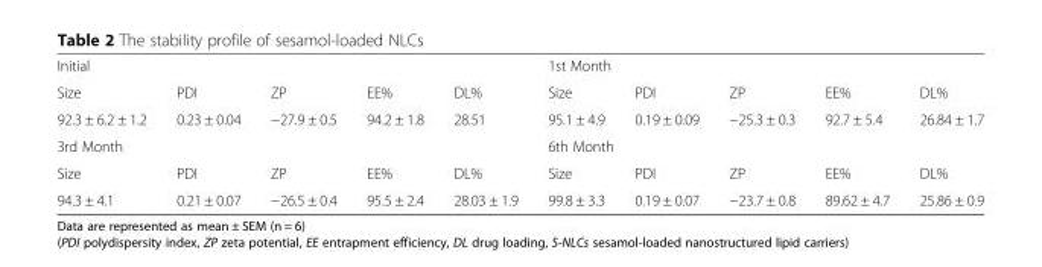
<table><tbody><tr><td colspan="5">Initial</td><td colspan="5">1st Month</td></tr><tr><td>Size</td><td>PDI</td><td>ZP</td><td>EE%</td><td>DL%</td><td>Size</td><td>PDI</td><td>ZP</td><td>EE%</td><td>DL%</td></tr><tr><td>92.3 ± 6.2 ± 1.2</td><td>0.23 ± 0.04</td><td>−27.9 ± 0.5</td><td>94.2 ± 1.8</td><td>28.51</td><td>95.1 ± 4.9</td><td>0.19 ± 0.09</td><td>−25.3 ± 0.3</td><td>92.7 ± 5.4</td><td>26.84 ± 1.7</td></tr><tr><td colspan="5">3rd Month</td><td colspan="5">6th Month</td></tr><tr><td>Size</td><td>PDI</td><td>ZP</td><td>EE%</td><td>DL%</td><td>Size</td><td>PDI</td><td>ZP</td><td>EE%</td><td>DL%</td></tr><tr><td>94.3 ± 4.1</td><td>0.21 ± 0.07</td><td>−26.5 ± 0.4</td><td>95.5 ± 2.4</td><td>28.03 ± 1.9</td><td>99.8 ± 3.3</td><td>0.19 ± 0.07</td><td>−23.7 ± 0.8</td><td>89.62 ± 4.7</td><td>25.86 ± 0.9</td></tr></tbody></table>